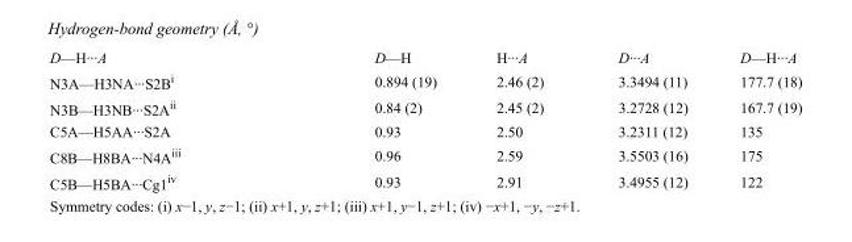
<table><tbody><tr><td>D—H···A</td><td>D—H</td><td>H···A</td><td>D···A</td><td>D—H···A</td></tr><tr><td>N3A—H3NA···S2B<sup>i</sup></td><td>0.894 (19)</td><td>2.46 (2)</td><td>3.3494 (11)</td><td>177.7 (18)</td></tr><tr><td>N3B—H3NB···S2A<sup>ii</sup></td><td>0.84 (2)</td><td>2.45 (2)</td><td>3.2728 (12)</td><td>167.7 (19)</td></tr><tr><td>C5A—H5AA···S2A</td><td>0.93</td><td>2.50</td><td>3.2311 (12)</td><td>135</td></tr><tr><td>C8B—H8BA···N4A<sup>iii</sup></td><td>0.96</td><td>2.59</td><td>3.5503 (16)</td><td>175</td></tr><tr><td>C5B—H5BA···Cg1<sup>iv</sup></td><td>0.93</td><td>2.91</td><td>3.4955 (12)</td><td>122</td></tr></tbody></table>